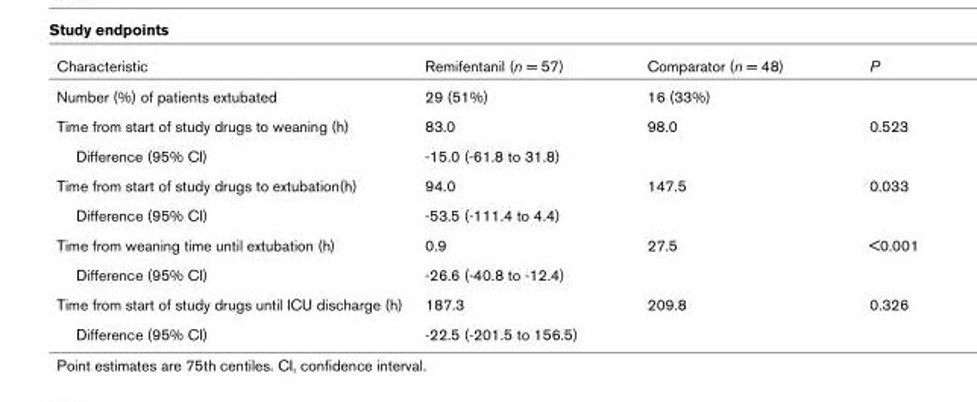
<table><thead><tr><td>Characteristic</td><td>Remifentanil (n = 57)</td><td>Comparator (n = 48)</td><td>P</td></tr></thead><tbody><tr><td>Number (%) of patients extubated</td><td>29 (51%)</td><td>16 (33%)</td><td></td></tr><tr><td>Time from start of study drugs to weaning (h)</td><td>83.0</td><td>98.0</td><td>0.523</td></tr><tr><td>Difference (95% CI)</td><td>-15.0 (-61.8 to 31.8)</td><td></td><td></td></tr><tr><td>Time from start of study drugs to extubation(h)</td><td>94.0</td><td>147.5</td><td>0.033</td></tr><tr><td>Difference (95% CI)</td><td>-53.5 (-111.4 to 4.4)</td><td></td><td></td></tr><tr><td>Time from weaning time until extubation (h)</td><td>0.9</td><td>27.5</td><td>&lt;0.001</td></tr><tr><td>Difference (95% CI)</td><td>-26.6 (-40.8 to -12.4)</td><td></td><td></td></tr><tr><td>Time from start of study drugs until ICU discharge (h)</td><td>187.3</td><td>209.8</td><td>0.326</td></tr><tr><td>Difference (95% CI)</td><td>-22.5 (-201.5 to 156.5)</td><td></td><td></td></tr></tbody></table>